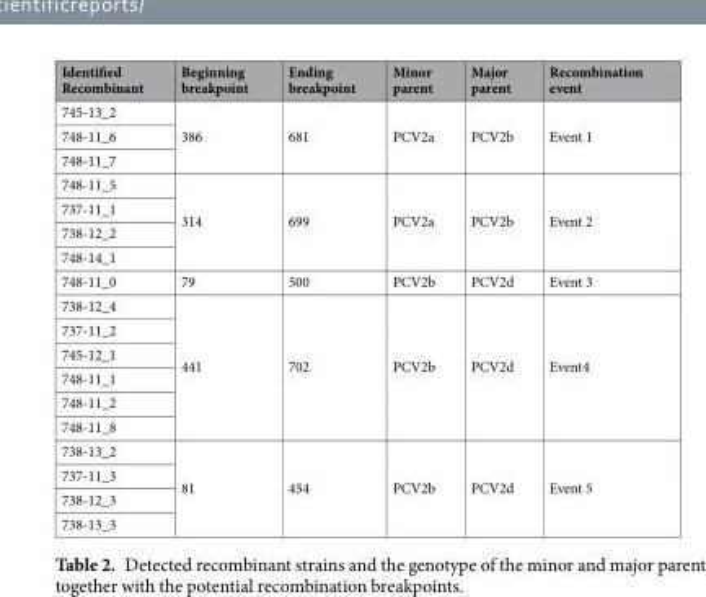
<table><thead><tr><td>Identified Recombinant</td><td>Beginning breakpoint</td><td>Ending breakpoint</td><td>Minor parent</td><td>Major parent</td><td>Recombination event</td></tr></thead><tbody><tr><td>745-13_2</td><td rowspan="3">386</td><td rowspan="3">681</td><td rowspan="3">PCV2a</td><td rowspan="3">PCV2b</td><td rowspan="3">Event 1</td></tr><tr><td>748-11_6</td></tr><tr><td>748-11_7</td></tr><tr><td>748-11_5</td><td rowspan="4">314</td><td rowspan="4">699</td><td rowspan="4">PCV2a</td><td rowspan="4">PCV2b</td><td rowspan="4">Event 2</td></tr><tr><td>737-11_1</td></tr><tr><td>738-12_2</td></tr><tr><td>748-14_1</td></tr><tr><td>748-11_0</td><td>79</td><td>500</td><td>PCV2b</td><td>PCV2d</td><td>Event 3</td></tr><tr><td>738-12_4</td><td rowspan="6">441</td><td rowspan="6">702</td><td rowspan="6">PCV2b</td><td rowspan="6">PCV2d</td><td rowspan="6">Event4</td></tr><tr><td>737-11_2</td></tr><tr><td>745-12_1</td></tr><tr><td>748-11_1</td></tr><tr><td>748-11_2</td></tr><tr><td>748-11_8</td></tr><tr><td>738-13_2</td><td rowspan="4">81</td><td rowspan="4">454</td><td rowspan="4">PCV2b</td><td rowspan="4">PCV2d</td><td rowspan="4">Event 5</td></tr><tr><td>737-11_3</td></tr><tr><td>738-12_3</td></tr><tr><td>738-13_3</td></tr></tbody></table>